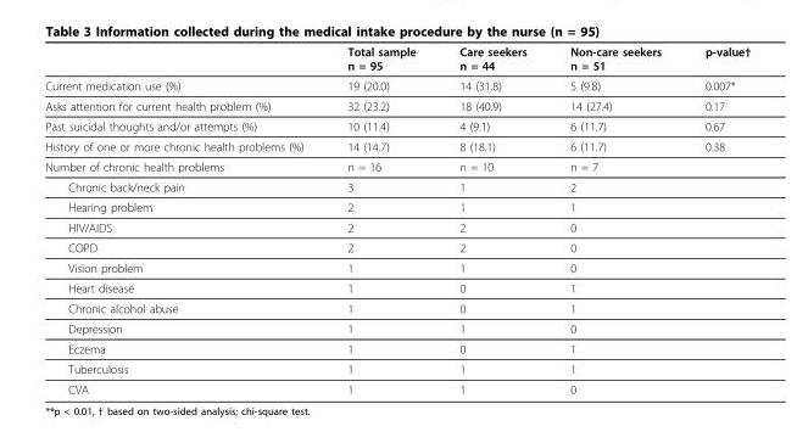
<table><thead><tr><td></td><td>Total sample n = 95</td><td>Care seekers n = 44</td><td>Non-care seekers n = 51</td><td>p-value†</td></tr></thead><tbody><tr><td>Current medication use (%)</td><td>19 (20.0)</td><td>14 (31.8)</td><td>5 (9.8)</td><td>0.007*</td></tr><tr><td>Asks attention for current health problem (%)</td><td>32 (23.2)</td><td>18 (40.9)</td><td>14 (27.4)</td><td>0.17</td></tr><tr><td>Past suicidal thoughts and/or attempts (%)</td><td>10 (11.4)</td><td>4 (9.1)</td><td>6 (11.7)</td><td>0.67</td></tr><tr><td>History of one or more chronic health problems (%)</td><td>14 (14.7)</td><td>8 (18.1)</td><td>6 (11.7)</td><td>0.38</td></tr><tr><td>Number of chronic health problems</td><td>n = 16</td><td>n = 10</td><td>n = 7</td><td></td></tr><tr><td>Chronic back/neck pain</td><td>3</td><td>1</td><td>2</td><td></td></tr><tr><td>Hearing problem</td><td>2</td><td>1</td><td>1</td><td></td></tr><tr><td>HIV/AIDS</td><td>2</td><td>2</td><td>0</td><td></td></tr><tr><td>COPD</td><td>2</td><td>2</td><td>0</td><td></td></tr><tr><td>Vision problem</td><td>1</td><td>1</td><td>0</td><td></td></tr><tr><td>Heart disease</td><td>1</td><td>0</td><td>1</td><td></td></tr><tr><td>Chronic alcohol abuse</td><td>1</td><td>0</td><td>1</td><td></td></tr><tr><td>Depression</td><td>1</td><td>1</td><td>0</td><td></td></tr><tr><td>Eczema</td><td>1</td><td>0</td><td>1</td><td></td></tr><tr><td>Tuberculosis</td><td>1</td><td>1</td><td>1</td><td></td></tr><tr><td>CVA</td><td>1</td><td>1</td><td>0</td><td></td></tr></tbody></table>